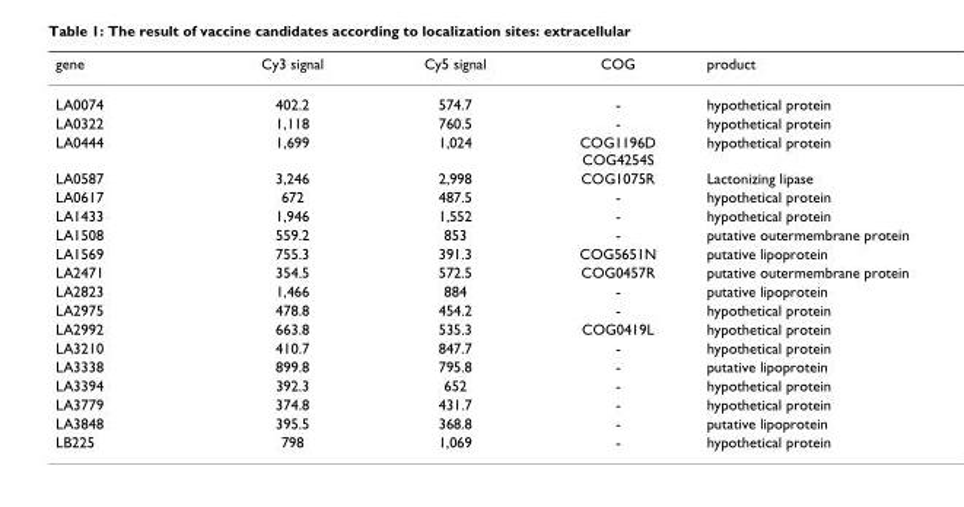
<table><thead><tr><td>gene</td><td>Cy3 signal</td><td>Cy5 signal</td><td>COG</td><td>product</td></tr></thead><tbody><tr><td>LA0074</td><td>402.2</td><td>574.7</td><td>-</td><td>hypothetical protein</td></tr><tr><td>LA0322</td><td>1,118</td><td>760.5</td><td>-</td><td>hypothetical protein</td></tr><tr><td>LA0444</td><td>1,699</td><td>1,024</td><td>COG1196D COG4254S</td><td>hypothetical protein</td></tr><tr><td>LA0587</td><td>3,246</td><td>2,998</td><td>COG1075R</td><td>Lactonizing lipase</td></tr><tr><td>LA0617</td><td>672</td><td>487.5</td><td>-</td><td>hypothetical protein</td></tr><tr><td>LA1433</td><td>1,946</td><td>1,552</td><td>-</td><td>hypothetical protein</td></tr><tr><td>LA1508</td><td>559.2</td><td>853</td><td>-</td><td>putative outermembrane protein</td></tr><tr><td>LA1569</td><td>755.3</td><td>391.3</td><td>COG5651N</td><td>putative lipoprotein</td></tr><tr><td>LA2471</td><td>354.5</td><td>572.5</td><td>COG0457R</td><td>putative outermembrane protein</td></tr><tr><td>LA2823</td><td>1,466</td><td>884</td><td>-</td><td>putative lipoprotein</td></tr><tr><td>LA2975</td><td>478.8</td><td>454.2</td><td>-</td><td>hypothetical protein</td></tr><tr><td>LA2992</td><td>663.8</td><td>535.3</td><td>COG0419L</td><td>hypothetical protein</td></tr><tr><td>LA3210</td><td>410.7</td><td>847.7</td><td>-</td><td>hypothetical protein</td></tr><tr><td>LA3338</td><td>899.8</td><td>795.8</td><td>-</td><td>putative lipoprotein</td></tr><tr><td>LA3394</td><td>392.3</td><td>652</td><td>-</td><td>hypothetical protein</td></tr><tr><td>LA3779</td><td>374.8</td><td>431.7</td><td>-</td><td>hypothetical protein</td></tr><tr><td>LA3848</td><td>395.5</td><td>368.8</td><td>-</td><td>putative lipoprotein</td></tr><tr><td>LB225</td><td>798</td><td>1,069</td><td>-</td><td>hypothetical protein</td></tr></tbody></table>